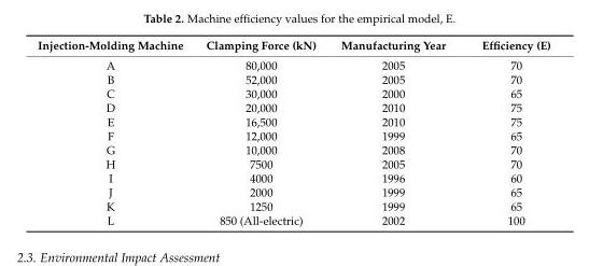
<table><thead><tr><td>Injection-Molding Machine</td><td>Clamping Force (kN)</td><td>Manufacturing Year</td><td>Efficiency (E)</td></tr></thead><tbody><tr><td>A</td><td>80,000</td><td>2005</td><td>70</td></tr><tr><td>B</td><td>52,000</td><td>2005</td><td>70</td></tr><tr><td>C</td><td>30,000</td><td>2000</td><td>65</td></tr><tr><td>D</td><td>20,000</td><td>2010</td><td>75</td></tr><tr><td>E</td><td>16,500</td><td>2010</td><td>75</td></tr><tr><td>F</td><td>12,000</td><td>1999</td><td>65</td></tr><tr><td>G</td><td>10,000</td><td>2008</td><td>70</td></tr><tr><td>H</td><td>7500</td><td>2005</td><td>70</td></tr><tr><td>I</td><td>4000</td><td>1996</td><td>60</td></tr><tr><td>J</td><td>2000</td><td>1999</td><td>65</td></tr><tr><td>K</td><td>1250</td><td>1999</td><td>65</td></tr><tr><td>L</td><td>850 (All-electric)</td><td>2002</td><td>100</td></tr></tbody></table>